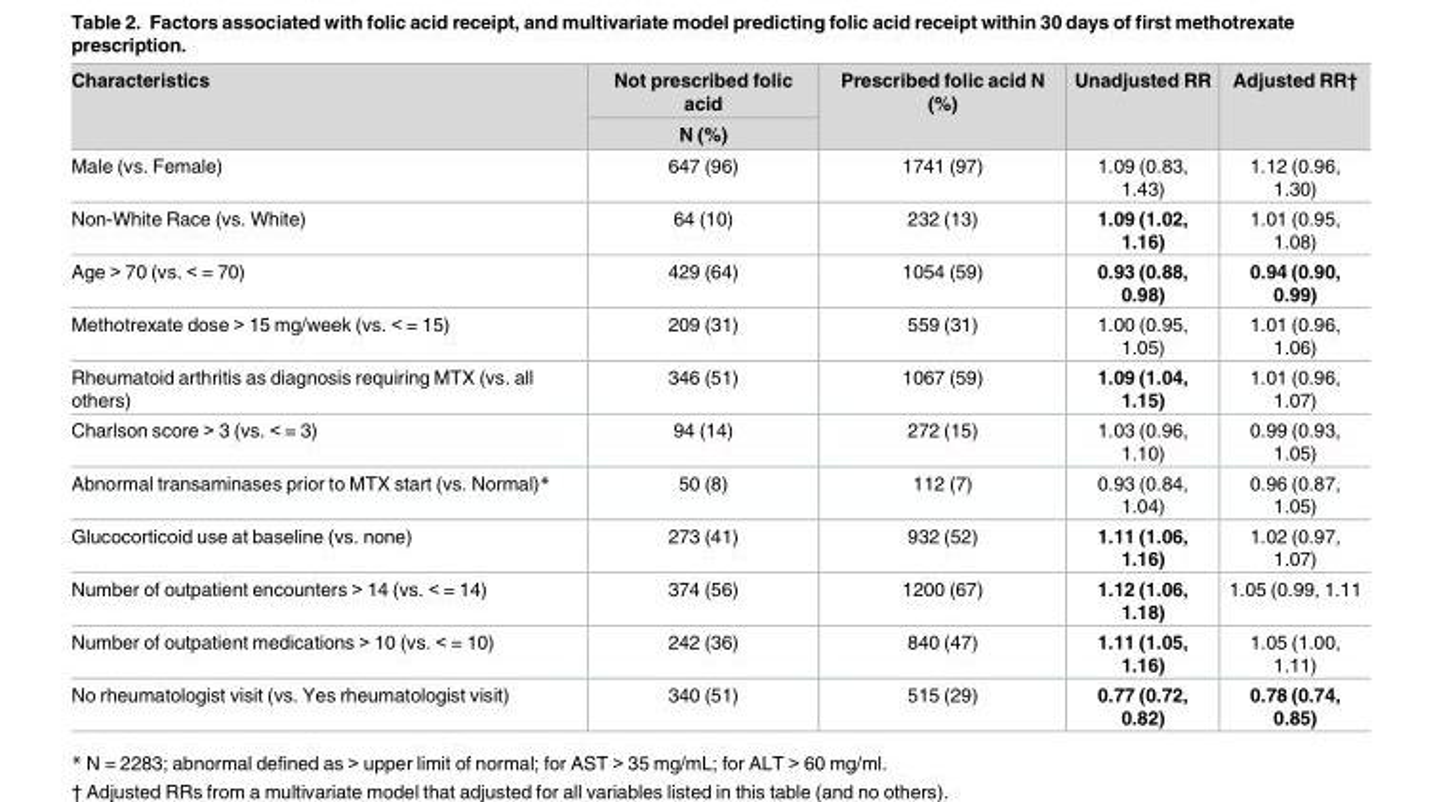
<table><thead><tr><td rowspan="2">Characteristics</td><td rowspan="2">Not prescribed folic acid N (%)</td><td rowspan="2">Prescribed folic acid N (%)</td><td rowspan="2">Unadjusted RR</td><td rowspan="2">Adjusted RR†</td></tr><tr></tr></thead><tbody><tr><td>Male (vs. Female)</td><td>647 (96)</td><td>1741 (97)</td><td>1.09 (0.83, 1.43)</td><td>1.12 (0.96, 1.30)</td></tr><tr><td>Non-White Race (vs. White)</td><td>64 (10)</td><td>232 (13)</td><td>1.09 (1.02, 1.16)</td><td>1.01 (0.95, 1.08)</td></tr><tr><td>Age &gt; 70 (vs. &lt; = 70)</td><td>429 (64)</td><td>1054 (59)</td><td>0.93 (0.88, 0.98)</td><td>0.94 (0.90, 0.99)</td></tr><tr><td>Methotrexate dose &gt; 15 mg/week (vs. &lt; = 15)</td><td>209 (31)</td><td>559 (31)</td><td>1.00 (0.95, 1.05)</td><td>1.01 (0.96, 1.06)</td></tr><tr><td>Rheumatoid arthritis as diagnosis requiring MTX (vs. all others)</td><td>346 (51)</td><td>1067 (59)</td><td>1.09 (1.04, 1.15)</td><td>1.01 (0.96, 1.07)</td></tr><tr><td>Charlson score &gt; 3 (vs. &lt; = 3)</td><td>94 (14)</td><td>272 (15)</td><td>1.03 (0.96, 1.10)</td><td>0.99 (0.93, 1.05)</td></tr><tr><td>Abnormal transaminases prior to MTX start (vs. Normal)*</td><td>50 (8)</td><td>112 (7)</td><td>0.93 (0.84, 1.04)</td><td>0.96 (0.87, 1.05)</td></tr><tr><td>Glucocorticoid use at baseline (vs. none)</td><td>273 (41)</td><td>932 (52)</td><td>1.11 (1.06, 1.16)</td><td>1.02 (0.97, 1.07)</td></tr><tr><td>Number of outpatient encounters &gt; 14 (vs. &lt; = 14)</td><td>374 (56)</td><td>1200 (67)</td><td>1.12 (1.06, 1.18)</td><td>1.05 (0.99, 1.11</td></tr><tr><td>Number of outpatient medications &gt; 10 (vs. &lt; = 10)</td><td>242 (36)</td><td>840 (47)</td><td>1.11 (1.05, 1.16)</td><td>1.05 (1.00, 1.11)</td></tr><tr><td>No rheumatologist visit (vs. Yes rheumatologist visit)</td><td>340 (51)</td><td>515 (29)</td><td>0.77 (0.72, 0.82)</td><td>0.78 (0.74, 0.85)</td></tr></tbody></table>